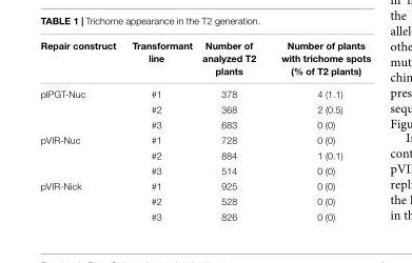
<table><thead><tr><td>Repair construct</td><td>Transformant line</td><td>Number of analyzed T2 plants</td><td>Number of plants with trichome spots (% of T2 plants)</td></tr></thead><tbody><tr><td rowspan="3">pIPGT-Nuc</td><td>#1</td><td>378</td><td>4 (1.1)</td></tr><tr><td>#2</td><td>368</td><td>2 (0.5)</td></tr><tr><td>#3</td><td>683</td><td>0 (0)</td></tr><tr><td rowspan="3">pVIR-Nuc</td><td>#1</td><td>728</td><td>0 (0)</td></tr><tr><td>#2</td><td>884</td><td>1 (0.1)</td></tr><tr><td>#3</td><td>514</td><td>0 (0)</td></tr><tr><td rowspan="3">pVIR-Nick</td><td>#1</td><td>925</td><td>0 (0)</td></tr><tr><td>#2</td><td>528</td><td>0 (0)</td></tr><tr><td>#3</td><td>826</td><td>0 (0)</td></tr></tbody></table>